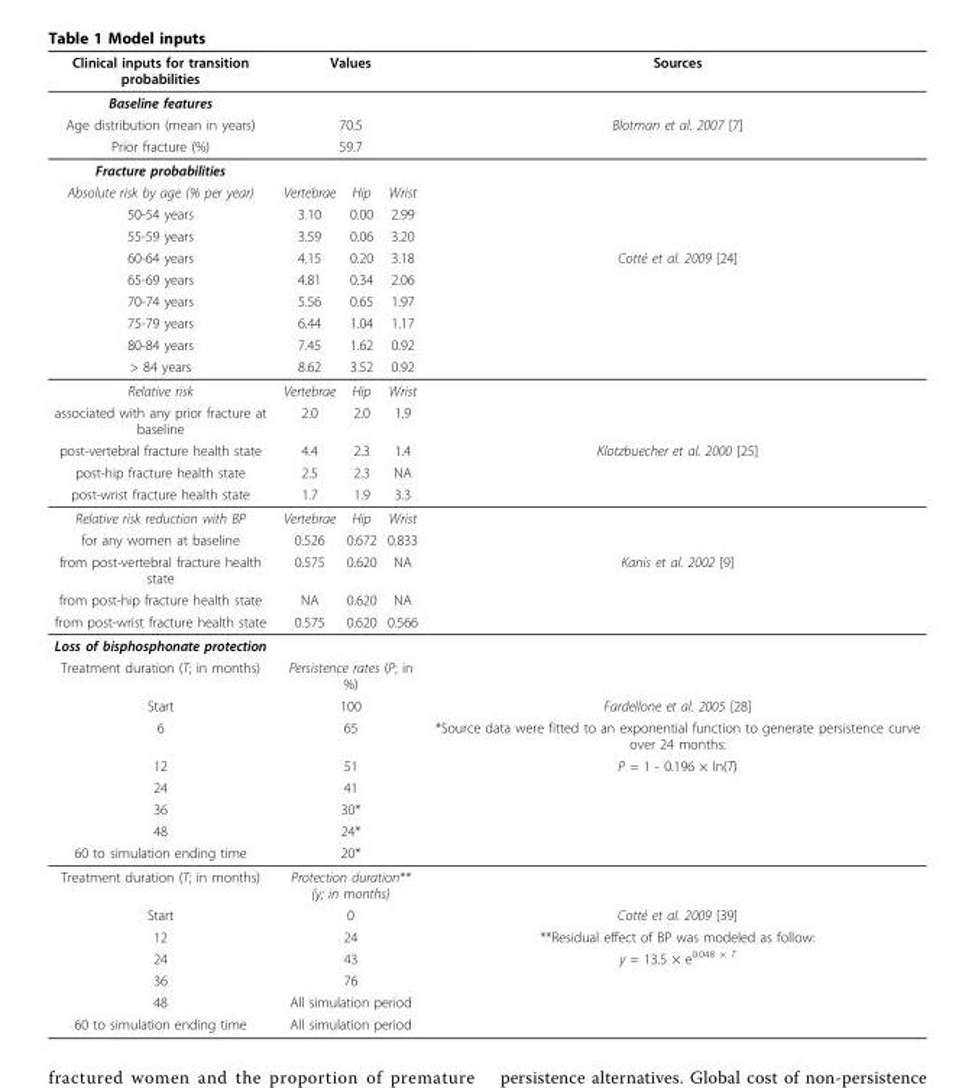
<table><thead><tr><td rowspan="2">Clinical inputs for transition probabilities Baseline features</td><td colspan="3">Values</td><td rowspan="2">Sources</td></tr><tr><td></td><td></td><td></td></tr></thead><tbody><tr><td>Age distribution (mean in years)</td><td colspan="3">70.5</td><td>Blotman et al. 2007 [7]</td></tr><tr><td>Prior fracture (%)</td><td colspan="3">59.7</td><td></td></tr><tr><td colspan="5">Fracture probabilities</td></tr><tr><td>Absolute risk by age (% per year)</td><td>Vertebrae</td><td>Hip</td><td>Wrist</td><td></td></tr><tr><td>50-54 years</td><td>3.10</td><td>0.00</td><td>2.99</td><td></td></tr><tr><td>55-59 years</td><td>3.59</td><td>0.06</td><td>3.20</td><td></td></tr><tr><td>60-64 years</td><td>4.15</td><td>0.20</td><td>3.18</td><td>Cotté et al. 2009 [24]</td></tr><tr><td>65-69 years</td><td>4.81</td><td>0.34</td><td>2.06</td><td></td></tr><tr><td>70-74 years</td><td>5.56</td><td>0.65</td><td>1.97</td><td></td></tr><tr><td>75-79 years</td><td>6.44</td><td>1.04</td><td>1.17</td><td></td></tr><tr><td>80-84 years</td><td>7.45</td><td>1.62</td><td>0.92</td><td></td></tr><tr><td>&gt; 84 years</td><td>8.62</td><td>3.52</td><td>0.92</td><td></td></tr><tr><td>Relative risk</td><td>Vertebrae</td><td>Hip</td><td>Wrist</td><td></td></tr><tr><td>associated with any prior fracture at baseline</td><td>2.0</td><td>2.0</td><td>1.9</td><td></td></tr><tr><td>post-vertebral fracture health state</td><td>4.4</td><td>2.3</td><td>1.4</td><td>Klotzbuecher et al. 2000 [25]</td></tr><tr><td>post-hip fracture health state</td><td>2.5</td><td>2.3</td><td>NA</td><td></td></tr><tr><td>post-wrist fracture health state</td><td>1.7</td><td>1.9</td><td>3.3</td><td></td></tr><tr><td>Relative risk reduction with BP</td><td>Vertebrae</td><td>Hip</td><td>Wrist</td><td></td></tr><tr><td>for any women at baseline</td><td>0.526</td><td>0.672</td><td>0.833</td><td></td></tr><tr><td>from post-vertebral fracture health state</td><td>0.575</td><td>0.620</td><td>NA</td><td>Kanis et al. 2002 [9]</td></tr><tr><td>from post-hip fracture health state</td><td>NA</td><td>0.620</td><td>NA</td><td></td></tr><tr><td>from post-wrist fracture health state</td><td>0.575</td><td>0.620</td><td>0.566</td><td></td></tr><tr><td colspan="5">Loss of bisphosphonate protection</td></tr><tr><td>Treatment duration (T; in months)</td><td colspan="3">Persistence rates (P; in %)</td><td></td></tr><tr><td>Start</td><td colspan="3">100</td><td>Fardellone et al. 2005 [28]</td></tr><tr><td>6</td><td colspan="3">65</td><td>*Source data were fitted to an exponential function to generate persistence curve over 24 months:</td></tr><tr><td>12</td><td colspan="3">51</td><td>P = 1 - 0.196 × ln(T)</td></tr><tr><td>24</td><td colspan="3">41</td><td></td></tr><tr><td>36</td><td colspan="3">30*</td><td></td></tr><tr><td>48</td><td colspan="3">24*</td><td></td></tr><tr><td>60 to simulation ending time</td><td colspan="3">20*</td><td></td></tr><tr><td>Treatment duration (T; in months)</td><td colspan="3">Protection duration** (y; in months)</td><td></td></tr><tr><td>Start</td><td colspan="3">0</td><td>Cotté et al. 2009 [39]</td></tr><tr><td>12</td><td colspan="3">24</td><td>**Residual effect of BP was modeled as follow:</td></tr><tr><td>24</td><td colspan="3">43</td><td>y = 13.5 × e<sup>0.048 × T</sup></td></tr><tr><td>36</td><td colspan="3">76</td><td></td></tr><tr><td>48</td><td colspan="3">All simulation period</td><td></td></tr><tr><td>60 to simulation ending time</td><td colspan="3">All simulation period</td><td></td></tr></tbody></table>